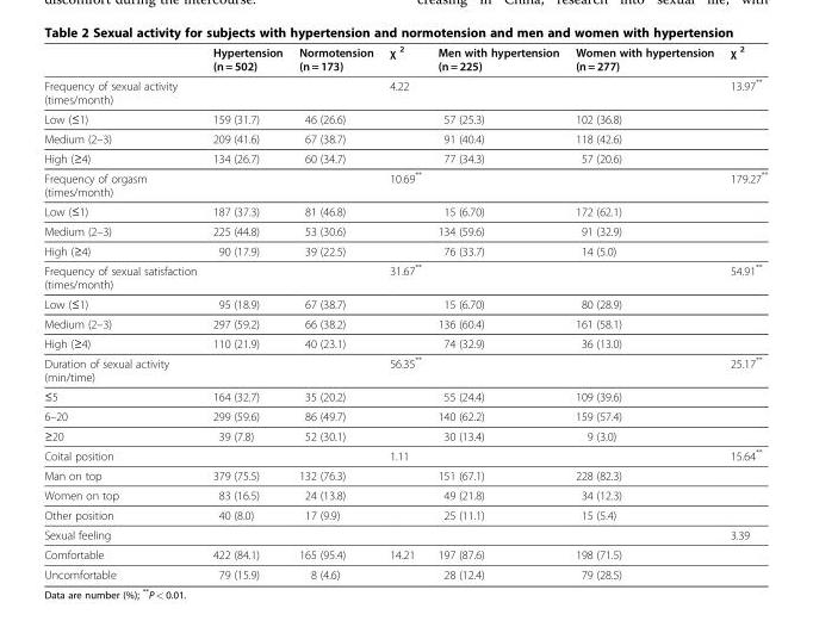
<table><thead><tr><td></td><td>Hypertension (n = 502)</td><td>Normotension (n = 173)</td><td>χ <sup>2</sup></td><td>Men with hypertension (n = 225)</td><td>Women with hypertension (n = 277)</td><td>χ <sup>2</sup></td></tr></thead><tbody><tr><td>Frequency of sexual activity (times/month)</td><td></td><td></td><td>4.22</td><td></td><td></td><td>13.97**</td></tr><tr><td>Low (≤1)</td><td>159 (31.7)</td><td>46 (26.6)</td><td></td><td>57 (25.3)</td><td>102 (36.8)</td><td></td></tr><tr><td>Medium (2–3)</td><td>209 (41.6)</td><td>67 (38.7)</td><td></td><td>91 (40.4)</td><td>118 (42.6)</td><td></td></tr><tr><td>High (≥4)</td><td>134 (26.7)</td><td>60 (34.7)</td><td></td><td>77 (34.3)</td><td>57 (20.6)</td><td></td></tr><tr><td>Frequency of orgasm (times/month)</td><td></td><td></td><td>10.69**</td><td></td><td></td><td>179.27**</td></tr><tr><td>Low (≤1)</td><td>187 (37.3)</td><td>81 (46.8)</td><td></td><td>15 (6.70)</td><td>172 (62.1)</td><td></td></tr><tr><td>Medium (2–3)</td><td>225 (44.8)</td><td>53 (30.6)</td><td></td><td>134 (59.6)</td><td>91 (32.9)</td><td></td></tr><tr><td>High (≥4)</td><td>90 (17.9)</td><td>39 (22.5)</td><td></td><td>76 (33.7)</td><td>14 (5.0)</td><td></td></tr><tr><td>Frequency of sexual satisfaction (times/month)</td><td></td><td></td><td>31.67**</td><td></td><td></td><td>54.91**</td></tr><tr><td>Low (≤1)</td><td>95 (18.9)</td><td>67 (38.7)</td><td></td><td>15 (6.70)</td><td>80 (28.9)</td><td></td></tr><tr><td>Medium (2–3)</td><td>297 (59.2)</td><td>66 (38.2)</td><td></td><td>136 (60.4)</td><td>161 (58.1)</td><td></td></tr><tr><td>High (≥4)</td><td>110 (21.9)</td><td>40 (23.1)</td><td></td><td>74 (32.9)</td><td>36 (13.0)</td><td></td></tr><tr><td>Duration of sexual activity (min/time)</td><td></td><td></td><td>56.35**</td><td></td><td></td><td>25.17**</td></tr><tr><td>≤5</td><td>164 (32.7)</td><td>35 (20.2)</td><td></td><td>55 (24.4)</td><td>109 (39.6)</td><td></td></tr><tr><td>6–20</td><td>299 (59.6)</td><td>86 (49.7)</td><td></td><td>140 (62.2)</td><td>159 (57.4)</td><td></td></tr><tr><td>≥20</td><td>39 (7.8)</td><td>52 (30.1)</td><td></td><td>30 (13.4)</td><td>9 (3.0)</td><td></td></tr><tr><td>Coital position</td><td></td><td></td><td>1.11</td><td></td><td></td><td>15.64**</td></tr><tr><td>Man on top</td><td>379 (75.5)</td><td>132 (76.3)</td><td></td><td>151 (67.1)</td><td>228 (82.3)</td><td></td></tr><tr><td>Women on top</td><td>83 (16.5)</td><td>24 (13.8)</td><td></td><td>49 (21.8)</td><td>34 (12.3)</td><td></td></tr><tr><td>Other position</td><td>40 (8.0)</td><td>17 (9.9)</td><td></td><td>25 (11.1)</td><td>15 (5.4)</td><td></td></tr><tr><td>Sexual feeling</td><td></td><td></td><td></td><td></td><td></td><td>3.39</td></tr><tr><td>Comfortable</td><td>422 (84.1)</td><td>165 (95.4)</td><td>14.21</td><td>197 (87.6)</td><td>198 (71.5)</td><td></td></tr><tr><td>Uncomfortable</td><td>79 (15.9)</td><td>8 (4.6)</td><td></td><td>28 (12.4)</td><td>79 (28.5)</td><td></td></tr></tbody></table>